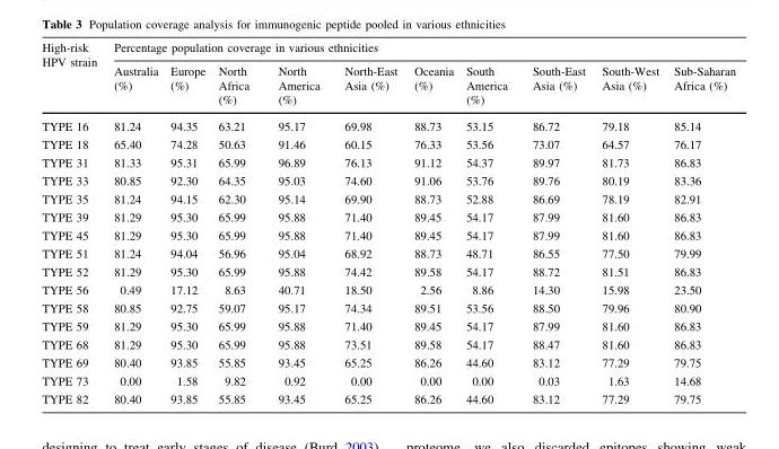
<table><thead><tr><td rowspan="2">High-risk HPV strain</td><td colspan="10">Percentage population coverage in various ethnicities</td></tr><tr><td>Australia (%)</td><td>Europe (%)</td><td>North Africa (%)</td><td>North America (%)</td><td>North-East Asia (%)</td><td>Oceania (%)</td><td>South America (%)</td><td>South-East Asia (%)</td><td>South-West Asia (%)</td><td>Sub-Saharan Africa (%)</td></tr></thead><tbody><tr><td>TYPE 16</td><td>81.24</td><td>94.35</td><td>63.21</td><td>95.17</td><td>69.98</td><td>88.73</td><td>53.15</td><td>86.72</td><td>79.18</td><td>85.14</td></tr><tr><td>TYPE 18</td><td>65.40</td><td>74.28</td><td>50.63</td><td>91.46</td><td>60.15</td><td>76.33</td><td>53.56</td><td>73.07</td><td>64.57</td><td>76.17</td></tr><tr><td>TYPE 31</td><td>81.33</td><td>95.31</td><td>65.99</td><td>96.89</td><td>76.13</td><td>91.12</td><td>54.37</td><td>89.97</td><td>81.73</td><td>86.83</td></tr><tr><td>TYPE 33</td><td>80.85</td><td>92.30</td><td>64.35</td><td>95.03</td><td>74.60</td><td>91.06</td><td>53.76</td><td>89.76</td><td>80.19</td><td>83.36</td></tr><tr><td>TYPE 35</td><td>81.24</td><td>94.15</td><td>62.30</td><td>95.14</td><td>69.90</td><td>88.73</td><td>52.88</td><td>86.69</td><td>78.19</td><td>82.91</td></tr><tr><td>TYPE 39</td><td>81.29</td><td>95.30</td><td>65.99</td><td>95.88</td><td>71.40</td><td>89.45</td><td>54.17</td><td>87.99</td><td>81.60</td><td>86.83</td></tr><tr><td>TYPE 45</td><td>81.29</td><td>95.30</td><td>65.99</td><td>95.88</td><td>71.40</td><td>89.45</td><td>54.17</td><td>87.99</td><td>81.60</td><td>86.83</td></tr><tr><td>TYPE 51</td><td>81.24</td><td>94.04</td><td>56.96</td><td>95.04</td><td>68.92</td><td>88.73</td><td>48.71</td><td>86.55</td><td>77.50</td><td>79.99</td></tr><tr><td>TYPE 52</td><td>81.29</td><td>95.30</td><td>65.99</td><td>95.88</td><td>74.42</td><td>89.58</td><td>54.17</td><td>88.72</td><td>81.51</td><td>86.83</td></tr><tr><td>TYPE 56</td><td>0.49</td><td>17.12</td><td>8.63</td><td>40.71</td><td>18.50</td><td>2.56</td><td>8.86</td><td>14.30</td><td>15.98</td><td>23.50</td></tr><tr><td>TYPE 58</td><td>80.85</td><td>92.75</td><td>59.07</td><td>95.17</td><td>74.34</td><td>89.51</td><td>53.56</td><td>88.50</td><td>79.96</td><td>80.90</td></tr><tr><td>TYPE 59</td><td>81.29</td><td>95.30</td><td>65.99</td><td>95.88</td><td>71.40</td><td>89.45</td><td>54.17</td><td>87.99</td><td>81.60</td><td>86.83</td></tr><tr><td>TYPE 68</td><td>81.29</td><td>95.30</td><td>65.99</td><td>95.88</td><td>73.51</td><td>89.58</td><td>54.17</td><td>88.47</td><td>81.60</td><td>86.83</td></tr><tr><td>TYPE 69</td><td>80.40</td><td>93.85</td><td>55.85</td><td>93.45</td><td>65.25</td><td>86.26</td><td>44.60</td><td>83.12</td><td>77.29</td><td>79.75</td></tr><tr><td>TYPE 73</td><td>0.00</td><td>1.58</td><td>9.82</td><td>0.92</td><td>0.00</td><td>0.00</td><td>0.00</td><td>0.03</td><td>1.63</td><td>14.68</td></tr><tr><td>TYPE 82</td><td>80.40</td><td>93.85</td><td>55.85</td><td>93.45</td><td>65.25</td><td>86.26</td><td>44.60</td><td>83.12</td><td>77.29</td><td>79.75</td></tr></tbody></table>